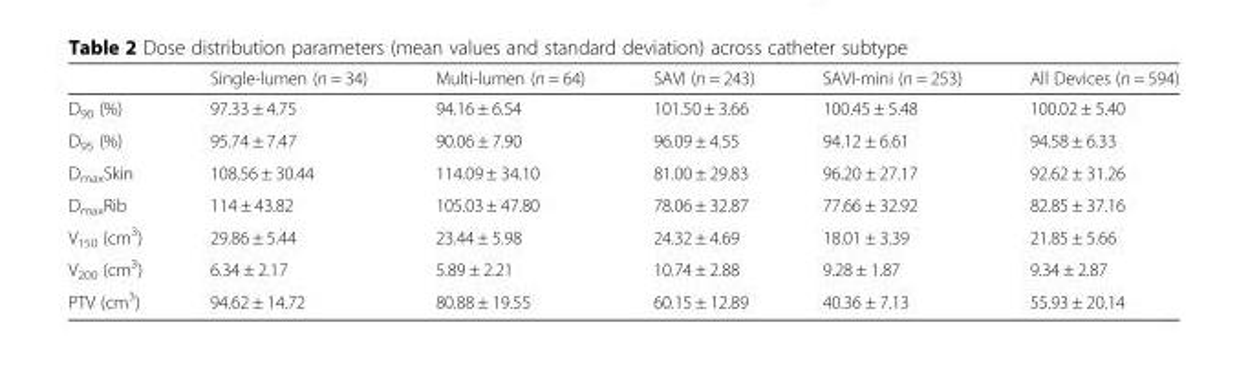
<table><thead><tr><td></td><td>Single-lumen (n = 34)</td><td>Multi-lumen (n = 64)</td><td>SAVI (n = 243)</td><td>SAVI-mini (n = 253)</td><td>All Devices (n = 594)</td></tr></thead><tbody><tr><td>D<sub>90</sub> (%)</td><td>97.33 ± 4.75</td><td>94.16 ± 6.54</td><td>101.50 ± 3.66</td><td>100.45 ± 5.48</td><td>100.02 ± 5.40</td></tr><tr><td>D<sub>95</sub> (%)</td><td>95.74 ± 7.47</td><td>90.06 ± 7.90</td><td>96.09 ± 4.55</td><td>94.12 ± 6.61</td><td>94.58 ± 6.33</td></tr><tr><td>D<sub>max</sub>Skin</td><td>108.56 ± 30.44</td><td>114.09 ± 34.10</td><td>81.00 ± 29.83</td><td>96.20 ± 27.17</td><td>92.62 ± 31.26</td></tr><tr><td>D<sub>max</sub>Rib</td><td>114 ± 43.82</td><td>105.03 ± 47.80</td><td>78.06 ± 32.87</td><td>77.66 ± 32.92</td><td>82.85 ± 37.16</td></tr><tr><td>V<sub>150</sub> (cm<sup>3</sup>)</td><td>29.86 ± 5.44</td><td>23.44 ± 5.98</td><td>24.32 ± 4.69</td><td>18.01 ± 3.39</td><td>21.85 ± 5.66</td></tr><tr><td>V<sub>200</sub> (cm<sup>3</sup>)</td><td>6.34 ± 2.17</td><td>5.89 ± 2.21</td><td>10.74 ± 2.88</td><td>9.28 ± 1.87</td><td>9.34 ± 2.87</td></tr><tr><td>PTV (cm<sup>3</sup>)</td><td>94.62 ± 14.72</td><td>80.88 ± 19.55</td><td>60.15 ± 12.89</td><td>40.36 ± 7.13</td><td>55.93 ± 20.14</td></tr></tbody></table>